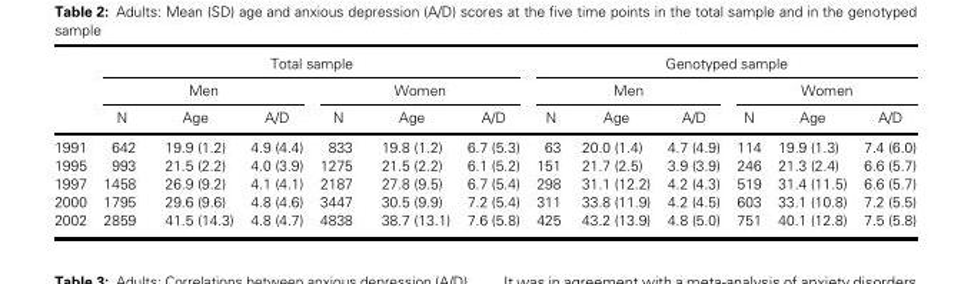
<table><thead><tr><td rowspan="3"></td><td colspan="6">Total sample</td><td colspan="6">Genotyped sample</td></tr><tr><td colspan="3">Men</td><td colspan="3">Women</td><td colspan="3">Men</td><td colspan="3">Women</td></tr><tr><td>N</td><td>Age</td><td>A/D</td><td>N</td><td>Age</td><td>A/D</td><td>N</td><td>Age</td><td>A/D</td><td>N</td><td>Age</td><td>A/D</td></tr></thead><tbody><tr><td>1991</td><td>642</td><td>19.9 (1.2)</td><td>4.9 (4.4)</td><td>833</td><td>19.8 (1.2)</td><td>6.7 (5.3)</td><td>63</td><td>20.0 (1.4)</td><td>4.7 (4.9)</td><td>114</td><td>19.9 (1.3)</td><td>7.4 (6.0)</td></tr><tr><td>1995</td><td>993</td><td>21.5 (2.2)</td><td>4.0 (3.9)</td><td>1275</td><td>21.5 (2.2)</td><td>6.1 (5.2)</td><td>151</td><td>21.7 (2.5)</td><td>3.9 (3.9)</td><td>246</td><td>21.3 (2.4)</td><td>6.6 (5.7)</td></tr><tr><td>1997</td><td>1458</td><td>26.9 (9.2)</td><td>4.1 (4.1)</td><td>2187</td><td>27.8 (9.5)</td><td>6.7 (5.4)</td><td>298</td><td>31.1 (12.2)</td><td>4.2 (4.3)</td><td>519</td><td>31.4 (11.5)</td><td>6.6 (5.7)</td></tr><tr><td>2000</td><td>1795</td><td>29.6 (9.6)</td><td>4.8 (4.6)</td><td>3447</td><td>30.5 (9.9)</td><td>7.2 (5.4)</td><td>311</td><td>33.8 (11.9)</td><td>4.2 (4.5)</td><td>603</td><td>33.1 (10.8)</td><td>7.2 (5.5)</td></tr><tr><td>2002</td><td>2859</td><td>41.5 (14.3)</td><td>4.8 (4.7)</td><td>4838</td><td>38.7 (13.1)</td><td>7.6 (5.8)</td><td>425</td><td>43.2 (13.9)</td><td>4.8 (5.0)</td><td>751</td><td>40.1 (12.8)</td><td>7.5 (5.8)</td></tr></tbody></table>